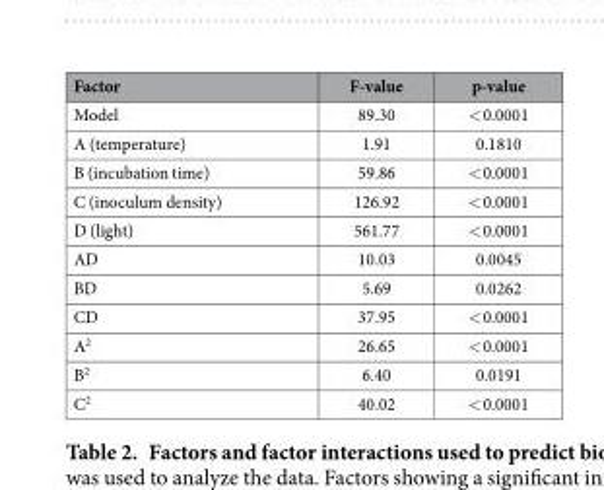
<table><thead><tr><td>Factor</td><td>F-value</td><td>p-value</td></tr></thead><tbody><tr><td>Model</td><td>89.30</td><td>&lt; 0.0001</td></tr><tr><td>A (temperature)</td><td>1.91</td><td>0.1810</td></tr><tr><td>B (incubation time)</td><td>59.86</td><td>&lt; 0.0001</td></tr><tr><td>C (inoculum density)</td><td>126.92</td><td>&lt; 0.0001</td></tr><tr><td>D (light)</td><td>561.77</td><td>&lt; 0.0001</td></tr><tr><td>AD</td><td>10.03</td><td>0.0045</td></tr><tr><td>BD</td><td>5.69</td><td>0.0262</td></tr><tr><td>CD</td><td>37.95</td><td>&lt; 0.0001</td></tr><tr><td>A<sup>2</sup></td><td>26.65</td><td>&lt; 0.0001</td></tr><tr><td>B<sup>2</sup></td><td>6.40</td><td>0.0191</td></tr><tr><td>C<sup>2</sup></td><td>40.02</td><td>&lt; 0.0001</td></tr></tbody></table>